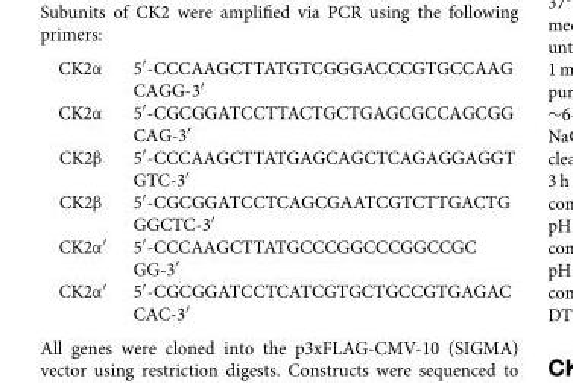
<table><tbody><tr><td>CK2α</td><td>5′-CCCAAGCTTATGTCGGGACCCGTGCCAAG CAGG-3′</td></tr><tr><td>CK2α</td><td>5′-CGCGGATCCTTACTGCTGAGCGCCAGCGG CAG-3′</td></tr><tr><td>CK2β</td><td>5′-CCCAAGCTTATGAGCAGCTCAGAGGAGGT GTC-3′</td></tr><tr><td>CK2β</td><td>5′-CGCGGATCCTCAGCGAATCGTCTTGACTG GGCTC-3′</td></tr><tr><td>CK2α′</td><td>5′-CCCAAGCTTATGCCCGGCCCGGCCGC GG-3′</td></tr><tr><td>CK2α′</td><td>5′-CGCGGATCCTCATCGTGCTGCCGTGAGAC CAC-3′</td></tr></tbody></table>